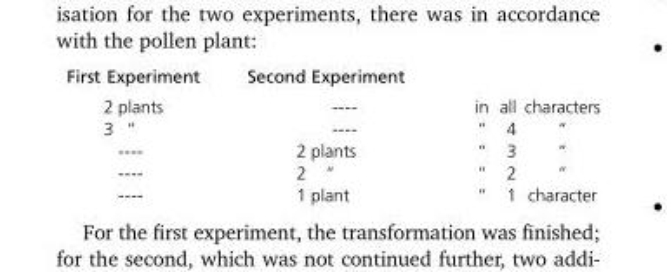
<table><thead><tr><td colspan="2">First Experiment</td><td colspan="2">Second Experiment</td><td rowspan="2">in</td><td rowspan="2">all</td><td rowspan="2">characters</td></tr><tr><td>2</td><td>plants</td><td></td><td>----</td></tr></thead><tbody><tr><td rowspan="4">3</td><td>“</td><td></td><td>----</td><td>“</td><td>4</td><td>“</td></tr><tr><td>----</td><td>2</td><td>plants</td><td>“</td><td>3</td><td>“</td></tr><tr><td>----</td><td>2</td><td>“</td><td>“</td><td>2</td><td>“</td></tr><tr><td>----</td><td>1</td><td>plant</td><td>“</td><td>1</td><td>character</td></tr></tbody></table>